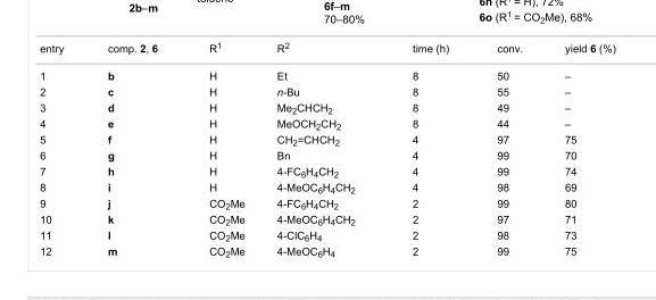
<table><tbody><tr><td>entry</td><td>comp. 2, 6</td><td>R<sup>1</sup></td><td>R<sup>2</sup></td><td>time (h)</td><td>conv.</td><td>yield 6 (%)</td></tr><tr><td>1</td><td>b</td><td>H</td><td>Et</td><td>8</td><td>50</td><td>–</td></tr><tr><td>2</td><td>c</td><td>H</td><td>n-Bu</td><td>8</td><td>55</td><td>–</td></tr><tr><td>3</td><td>d</td><td>H</td><td>Me<sub>2</sub>CHCH<sub>2</sub></td><td>8</td><td>49</td><td>–</td></tr><tr><td>4</td><td>e</td><td>H</td><td>MeOCH<sub>2</sub>CH<sub>2</sub></td><td>8</td><td>44</td><td>–</td></tr><tr><td>5</td><td>f</td><td>H</td><td>CH<sub>2</sub>=CHCH<sub>2</sub></td><td>4</td><td>97</td><td>75</td></tr><tr><td>6</td><td>g</td><td>H</td><td>Bn</td><td>4</td><td>99</td><td>70</td></tr><tr><td>7</td><td>h</td><td>H</td><td>4-FC<sub>6</sub>H<sub>4</sub>CH<sub>2</sub></td><td>4</td><td>99</td><td>74</td></tr><tr><td>8</td><td>i</td><td>H</td><td>4-MeOC<sub>6</sub>H<sub>4</sub>CH<sub>2</sub></td><td>4</td><td>98</td><td>69</td></tr><tr><td>9</td><td>j</td><td>CO<sub>2</sub>Me</td><td>4-FC<sub>6</sub>H<sub>4</sub>CH<sub>2</sub></td><td>2</td><td>99</td><td>80</td></tr><tr><td>10</td><td>k</td><td>CO<sub>2</sub>Me</td><td>4-MeOC<sub>6</sub>H<sub>4</sub>CH<sub>2</sub></td><td>2</td><td>97</td><td>71</td></tr><tr><td>11</td><td>l</td><td>CO<sub>2</sub>Me</td><td>4-ClC<sub>6</sub>H<sub>4</sub></td><td>2</td><td>98</td><td>73</td></tr><tr><td>12</td><td>m</td><td>CO<sub>2</sub>Me</td><td>4-MeOC<sub>6</sub>H<sub>4</sub></td><td>2</td><td>99</td><td>75</td></tr></tbody></table>